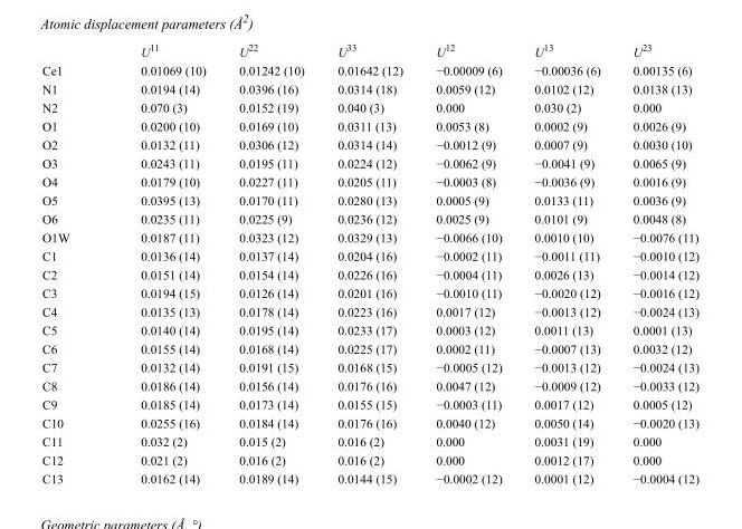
<table><thead><tr><td></td><td>U<sup>11</sup></td><td>U<sup>22</sup></td><td>U<sup>33</sup></td><td>U<sup>12</sup></td><td>U<sup>13</sup></td><td>U<sup>23</sup></td></tr></thead><tbody><tr><td>Ce1</td><td>0.01069 (10)</td><td>0.01242 (10)</td><td>0.01642 (12)</td><td>−0.00009 (6)</td><td>−0.00036 (6)</td><td>0.00135 (6)</td></tr><tr><td>N1</td><td>0.0194 (14)</td><td>0.0396 (16)</td><td>0.0314 (18)</td><td>0.0059 (12)</td><td>0.0102 (12)</td><td>0.0138 (13)</td></tr><tr><td>N2</td><td>0.070 (3)</td><td>0.0152 (19)</td><td>0.040 (3)</td><td>0.000</td><td>0.030 (2)</td><td>0.000</td></tr><tr><td>O1</td><td>0.0200 (10)</td><td>0.0169 (10)</td><td>0.0311 (13)</td><td>0.0053 (8)</td><td>0.0002 (9)</td><td>0.0026 (9)</td></tr><tr><td>O2</td><td>0.0132 (11)</td><td>0.0306 (12)</td><td>0.0314 (14)</td><td>−0.0012 (9)</td><td>0.0007 (9)</td><td>0.0030 (10)</td></tr><tr><td>O3</td><td>0.0243 (11)</td><td>0.0195 (11)</td><td>0.0224 (12)</td><td>−0.0062 (9)</td><td>−0.0041 (9)</td><td>0.0065 (9)</td></tr><tr><td>O4</td><td>0.0179 (10)</td><td>0.0227 (11)</td><td>0.0205 (11)</td><td>−0.0003 (8)</td><td>−0.0036 (9)</td><td>0.0016 (9)</td></tr><tr><td>O5</td><td>0.0395 (13)</td><td>0.0170 (11)</td><td>0.0280 (13)</td><td>0.0005 (9)</td><td>0.0133 (11)</td><td>0.0036 (9)</td></tr><tr><td>O6</td><td>0.0235 (11)</td><td>0.0225 (9)</td><td>0.0236 (12)</td><td>0.0025 (9)</td><td>0.0101 (9)</td><td>0.0048 (8)</td></tr><tr><td>O1W</td><td>0.0187 (11)</td><td>0.0323 (12)</td><td>0.0329 (13)</td><td>−0.0066 (10)</td><td>0.0010 (10)</td><td>−0.0076 (11)</td></tr><tr><td>C1</td><td>0.0136 (14)</td><td>0.0137 (14)</td><td>0.0204 (16)</td><td>−0.0002 (11)</td><td>−0.0011 (11)</td><td>−0.0010 (12)</td></tr><tr><td>C2</td><td>0.0151 (14)</td><td>0.0154 (14)</td><td>0.0226 (16)</td><td>−0.0004 (11)</td><td>0.0026 (13)</td><td>−0.0014 (12)</td></tr><tr><td>C3</td><td>0.0194 (15)</td><td>0.0126 (14)</td><td>0.0201 (16)</td><td>−0.0010 (11)</td><td>−0.0020 (12)</td><td>−0.0016 (12)</td></tr><tr><td>C4</td><td>0.0135 (13)</td><td>0.0178 (14)</td><td>0.0223 (16)</td><td>0.0017 (12)</td><td>−0.0013 (12)</td><td>−0.0024 (13)</td></tr><tr><td>C5</td><td>0.0140 (14)</td><td>0.0195 (14)</td><td>0.0233 (17)</td><td>0.0003 (12)</td><td>0.0011 (13)</td><td>0.0001 (13)</td></tr><tr><td>C6</td><td>0.0155 (14)</td><td>0.0168 (14)</td><td>0.0225 (17)</td><td>0.0002 (11)</td><td>−0.0007 (13)</td><td>0.0032 (12)</td></tr><tr><td>C7</td><td>0.0132 (14)</td><td>0.0191 (15)</td><td>0.0168 (15)</td><td>−0.0005 (12)</td><td>−0.0013 (12)</td><td>−0.0024 (13)</td></tr><tr><td>C8</td><td>0.0186 (14)</td><td>0.0156 (14)</td><td>0.0176 (16)</td><td>0.0047 (12)</td><td>−0.0009 (12)</td><td>−0.0033 (12)</td></tr><tr><td>C9</td><td>0.0185 (14)</td><td>0.0173 (14)</td><td>0.0155 (15)</td><td>−0.0003 (11)</td><td>0.0017 (12)</td><td>0.0005 (12)</td></tr><tr><td>C10</td><td>0.0255 (16)</td><td>0.0184 (14)</td><td>0.0176 (16)</td><td>0.0040 (12)</td><td>0.0050 (14)</td><td>−0.0020 (13)</td></tr><tr><td>C11</td><td>0.032 (2)</td><td>0.015 (2)</td><td>0.016 (2)</td><td>0.000</td><td>0.0031 (19)</td><td>0.000</td></tr><tr><td>C12</td><td>0.021 (2)</td><td>0.016 (2)</td><td>0.016 (2)</td><td>0.000</td><td>0.0012 (17)</td><td>0.000</td></tr><tr><td>C13</td><td>0.0162 (14)</td><td>0.0189 (14)</td><td>0.0144 (15)</td><td>−0.0002 (12)</td><td>0.0001 (12)</td><td>−0.0004 (12)</td></tr></tbody></table>